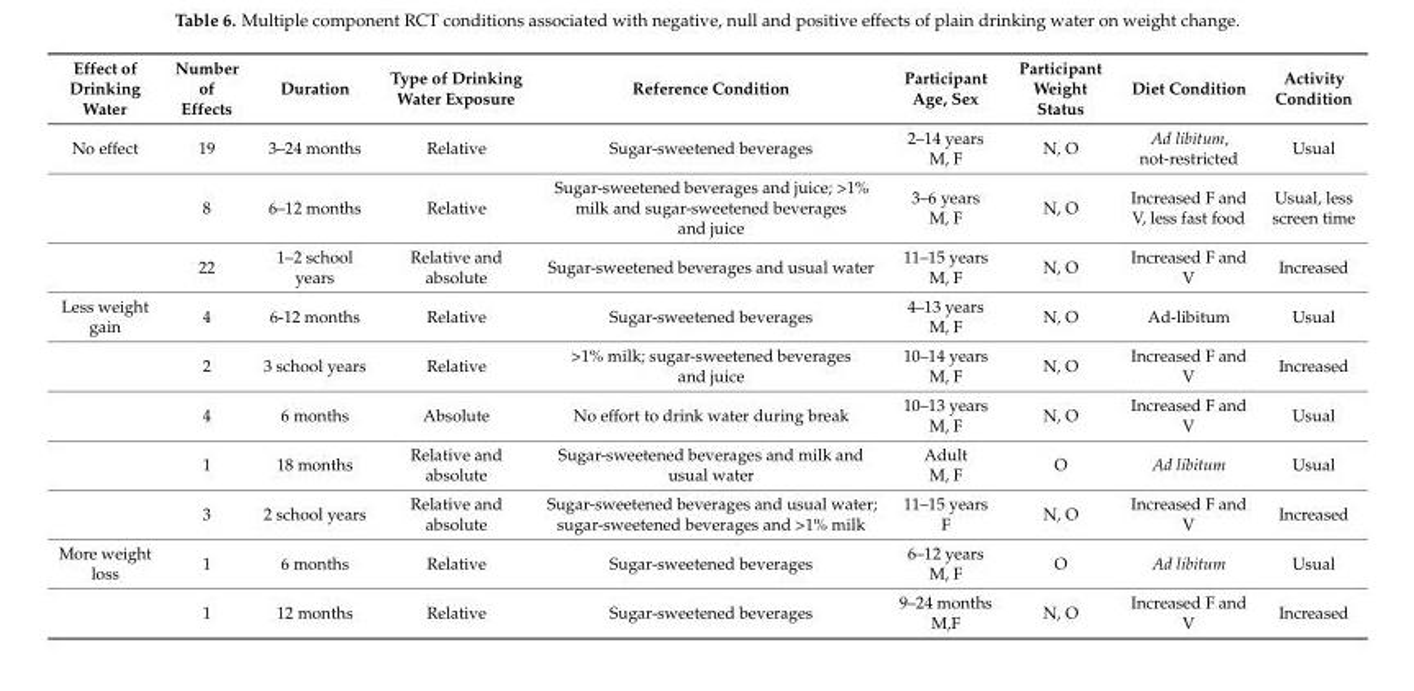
<table><thead><tr><td>Effect of Drinking Water</td><td>Number of Effects</td><td>Duration</td><td>Type of Drinking Water Exposure</td><td>Reference Condition</td><td>Participant Age, Sex</td><td>Participant Weight Status</td><td>Diet Condition</td><td>Activity Condition</td></tr></thead><tbody><tr><td rowspan="3">No effect</td><td>19</td><td>3–24 months</td><td>Relative</td><td>Sugar-sweetened beverages</td><td>2–14 years M, F</td><td>N, O</td><td>Ad libitum, not-restricted</td><td>Usual</td></tr><tr><td>8</td><td>6–12 months</td><td>Relative</td><td>Sugar-sweetened beverages and juice; &gt;1% milk and sugar-sweetened beverages and juice</td><td>3–6 years M, F</td><td>N, O</td><td>Increased F and V, less fast food</td><td>Usual, less screen time</td></tr><tr><td>22</td><td>1–2 school years</td><td>Relative and absolute</td><td>Sugar-sweetened beverages and usual water</td><td>11–15 years M, F</td><td>N, O</td><td>Increased F and V</td><td>Increased</td></tr><tr><td rowspan="5">Less weight gain</td><td>4</td><td>6-12 months</td><td>Relative</td><td>Sugar-sweetened beverages</td><td>4–13 years M, F</td><td>N, O</td><td>Ad-libitum</td><td>Usual</td></tr><tr><td>2</td><td>3 school years</td><td>Relative</td><td>&gt;1% milk; sugar-sweetened beverages and juice</td><td>10–14 years M, F</td><td>N, O</td><td>Increased F and V</td><td>Increased</td></tr><tr><td>4</td><td>6 months</td><td>Absolute</td><td>No effort to drink water during break</td><td>10–13 years M, F</td><td>N, O</td><td>Increased F and V</td><td>Usual</td></tr><tr><td>1</td><td>18 months</td><td>Relative and absolute</td><td>Sugar-sweetened beverages and milk and usual water</td><td>Adult M, F</td><td>O</td><td>Ad libitum</td><td>Usual</td></tr><tr><td>3</td><td>2 school years</td><td>Relative and absolute</td><td>Sugar-sweetened beverages and usual water; sugar-sweetened beverages and &gt;1% milk</td><td>11–15 years F</td><td>N, O</td><td>Increased F and V</td><td>Increased</td></tr><tr><td rowspan="2">More weight loss</td><td>1</td><td>6 months</td><td>Relative</td><td>Sugar-sweetened beverages</td><td>6–12 years M, F</td><td>O</td><td>Ad libitum</td><td>Usual</td></tr><tr><td>1</td><td>12 months</td><td>Relative</td><td>Sugar-sweetened beverages</td><td>9–24 months M,F</td><td>N, O</td><td>Increased F and V</td><td>Increased</td></tr></tbody></table>